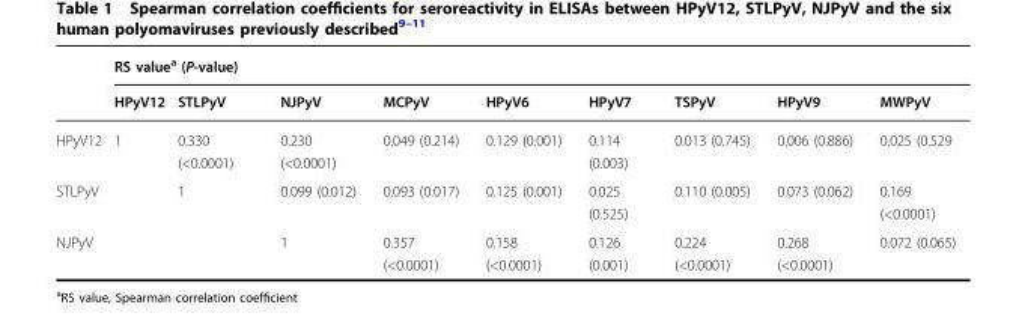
<table><thead><tr><td rowspan="2"></td><td colspan="9">RS value<sup>a</sup> (P-value)</td></tr><tr><td>HPyV12</td><td>STLPyV</td><td>NJPyV</td><td>MCPyV</td><td>HPyV6</td><td>HPyV7</td><td>TSPyV</td><td>HPyV9</td><td>MWPyV</td></tr></thead><tbody><tr><td>HPyV12</td><td>1</td><td>0.330 (&lt;0.0001)</td><td>0.230 (&lt;0.0001)</td><td>0.049 (0.214)</td><td>0.129 (0.001)</td><td>0.114 (0.003)</td><td>0.013 (0.745)</td><td>0.006 (0.886)</td><td>0.025 (0.529</td></tr><tr><td>STLPyV</td><td></td><td>1</td><td>0.099 (0.012)</td><td>0.093 (0.017)</td><td>0.125 (0.001)</td><td>0.025 (0.525)</td><td>0.110 (0.005)</td><td>0.073 (0.062)</td><td>0.169 (&lt;0.0001)</td></tr><tr><td>NJPyV</td><td></td><td></td><td>1</td><td>0.357 (&lt;0.0001)</td><td>0.158 (&lt;0.0001)</td><td>0.126 (0.001)</td><td>0.224 (&lt;0.0001)</td><td>0.268 (&lt;0.0001)</td><td>0.072 (0.065)</td></tr></tbody></table>